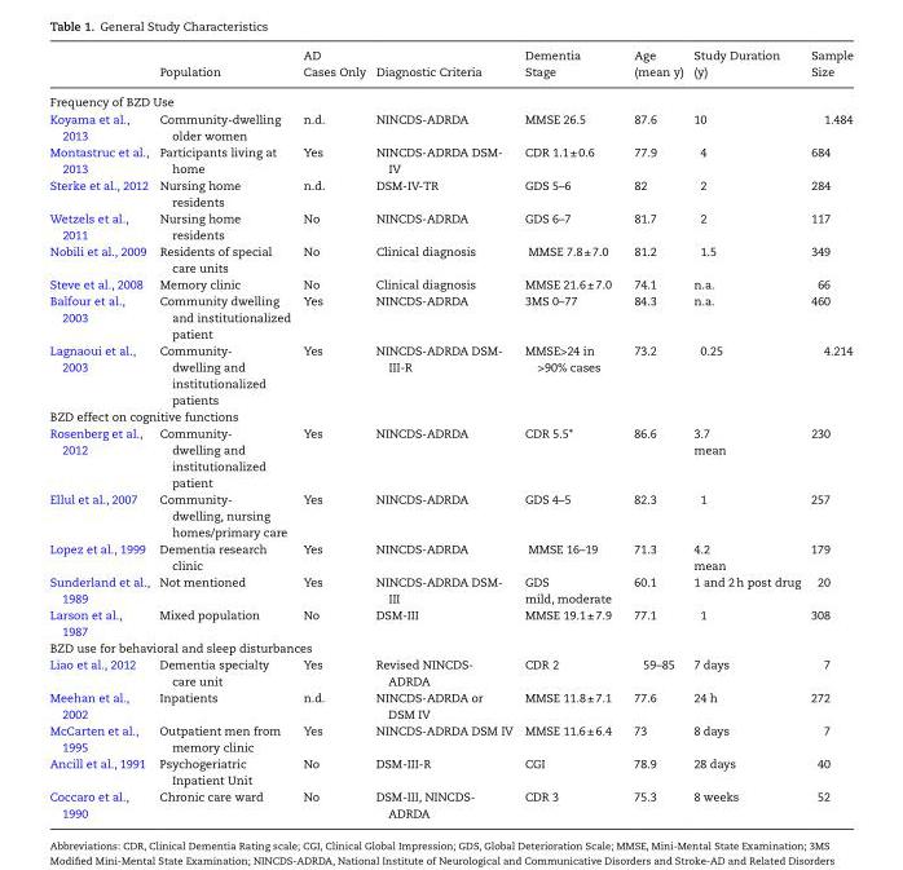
<table><thead><tr><td></td><td>Population</td><td>AD Cases Only</td><td>Diagnostic Criteria</td><td>Dementia Stage</td><td>Age (mean y)</td><td>Study Duration (y)</td><td>Sample Size</td></tr><tr><td colspan="8">Frequency of BZD Use</td></tr></thead><tbody><tr><td>Koyama et al., 2013</td><td>Community-dwelling older women</td><td>n.d.</td><td>NINCDS-ADRDA</td><td>MMSE 26.5</td><td>87.6</td><td>10</td><td>1.484</td></tr><tr><td>Montastruc et al., 2013</td><td>Participants living at home</td><td>Yes</td><td>NINCDS-ADRDA DSM- IV</td><td>CDR 1.1 ± 0.6</td><td>77.9</td><td>4</td><td>684</td></tr><tr><td>Sterke et al., 2012</td><td>Nursing home residents</td><td>n.d.</td><td>DSM-IV-TR</td><td>GDS 5–6</td><td>82</td><td>2</td><td>284</td></tr><tr><td>Wetzels et al., 2011</td><td>Nursing home residents</td><td>No</td><td>NINCDS-ADRDA</td><td>GDS 6–7</td><td>81.7</td><td>2</td><td>117</td></tr><tr><td>Nobili et al., 2009</td><td>Residents of special care units</td><td>No</td><td>Clinical diagnosis</td><td>MMSE 7.8 ± 7.0</td><td>81.2</td><td>1.5</td><td>349</td></tr><tr><td>Steve et al., 2008</td><td>Memory clinic</td><td>No</td><td>Clinical diagnosis</td><td>MMSE 21.6 ± 7.0</td><td>74.1</td><td>n.a.</td><td>66</td></tr><tr><td>Balfour et al., 2003</td><td>Community dwelling and institutionalized patient</td><td>Yes</td><td>NINCDS-ADRDA</td><td>3MS 0–77</td><td>84.3</td><td>n.a.</td><td>460</td></tr><tr><td>Lagnaoui et al., 2003</td><td>Community- dwelling and institutionalized patients</td><td>Yes</td><td>NINCDS-ADRDA DSM- III-R</td><td>MMSE&gt;24 in &gt;90% cases</td><td>73.2</td><td>0.25</td><td>4.214</td></tr><tr><td colspan="8">BZD effect on cognitive functions</td></tr><tr><td>Rosenberg et al., 2012</td><td>Community- dwelling and institutionalized patient</td><td>Yes</td><td>NINCDS-ADRDA</td><td>CDR 5.5*</td><td>86.6</td><td>3.7 mean</td><td>230</td></tr><tr><td>Ellul et al., 2007</td><td>Community- dwelling, nursing homes/primary care</td><td>Yes</td><td>NINCDS-ADRDA</td><td>GDS 4–5</td><td>82.3</td><td>1</td><td>257</td></tr><tr><td>Lopez et al., 1999</td><td>Dementia research clinic</td><td>Yes</td><td>NINCDS-ADRDA</td><td>MMSE 16–19</td><td>71.3</td><td>4.2 mean</td><td>179</td></tr><tr><td>Sunderland et al., 1989</td><td>Not mentioned</td><td>Yes</td><td>NINCDS-ADRDA DSM- III</td><td>GDS mild, moderate</td><td>60.1</td><td>1 and 2 h post drug</td><td>20</td></tr><tr><td>Larson et al., 1987</td><td>Mixed population</td><td>No</td><td>DSM-III</td><td>MMSE 19.1 ± 7.9</td><td>77.1</td><td>1</td><td>308</td></tr><tr><td colspan="8">BZD use for behavioral and sleep disturbances</td></tr><tr><td>Liao et al., 2012</td><td>Dementia specialty care unit</td><td>Yes</td><td>Revised NINCDS- ADRDA</td><td>CDR 2</td><td>59–85</td><td>7 days</td><td>7</td></tr><tr><td>Meehan et al., 2002</td><td>Inpatients</td><td>n.d.</td><td>NINCDS-ADRDA or DSM IV</td><td>MMSE 11.8 ± 7.1</td><td>77.6</td><td>24 h</td><td>272</td></tr><tr><td>McCarten et al., 1995</td><td>Outpatient men from memory clinic</td><td>Yes</td><td>NINCDS-ADRDA DSM IV</td><td>MMSE 11.6 ± 6.4</td><td>73</td><td>8 days</td><td>7</td></tr><tr><td>Ancill et al., 1991</td><td>Psychogeriatric Inpatient Unit</td><td>No</td><td>DSM-III-R</td><td>CGI</td><td>78.9</td><td>28 days</td><td>40</td></tr><tr><td>Coccaro et al., 1990</td><td>Chronic care ward</td><td>No</td><td>DSM-III, NINCDS- ADRDA</td><td>CDR 3</td><td>75.3</td><td>8 weeks</td><td>52</td></tr></tbody></table>